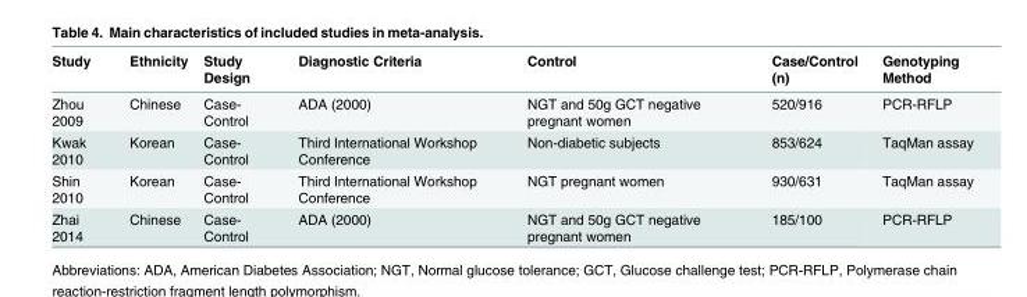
<table><thead><tr><td>Study</td><td>Ethnicity</td><td>Study Design</td><td>Diagnostic Criteria</td><td>Control</td><td>Case/Control (n)</td><td>Genotyping Method</td></tr></thead><tbody><tr><td>Zhou 2009</td><td>Chinese</td><td>Case- Control</td><td>ADA (2000)</td><td>NGT and 50g GCT negative pregnant women</td><td>520/916</td><td>PCR-RFLP</td></tr><tr><td>Kwak 2010</td><td>Korean</td><td>Case- Control</td><td>Third International Workshop Conference</td><td>Non-diabetic subjects</td><td>853/624</td><td>TaqMan assay</td></tr><tr><td>Shin 2010</td><td>Korean</td><td>Case- Control</td><td>Third International Workshop Conference</td><td>NGT pregnant women</td><td>930/631</td><td>TaqMan assay</td></tr><tr><td>Zhai 2014</td><td>Chinese</td><td>Case- Control</td><td>ADA (2000)</td><td>NGT and 50g GCT negative pregnant women</td><td>185/100</td><td>PCR-RFLP</td></tr></tbody></table>